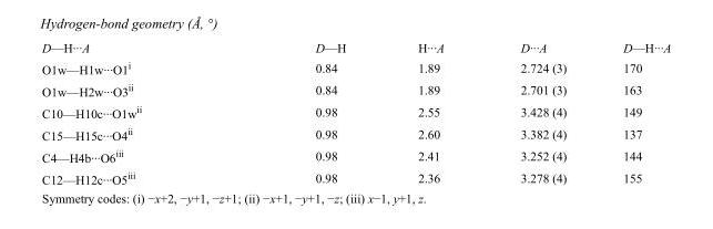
<table><tbody><tr><td>D—H···A</td><td>D—H</td><td>H···A</td><td>D···A</td><td>D—H···A</td></tr><tr><td>O1w—H1w···O1<sup>i</sup></td><td>0.84</td><td>1.89</td><td>2.724 (3)</td><td>170</td></tr><tr><td>O1w—H2w···O3<sup>ii</sup></td><td>0.84</td><td>1.89</td><td>2.701 (3)</td><td>163</td></tr><tr><td>C10—H10c···O1w<sup>ii</sup></td><td>0.98</td><td>2.55</td><td>3.428 (4)</td><td>149</td></tr><tr><td>C15—H15c···O4<sup>ii</sup></td><td>0.98</td><td>2.60</td><td>3.382 (4)</td><td>137</td></tr><tr><td>C4—H4b···O6<sup>iii</sup></td><td>0.98</td><td>2.41</td><td>3.252 (4)</td><td>144</td></tr><tr><td>C12—H12c···O5<sup>iii</sup></td><td>0.98</td><td>2.36</td><td>3.278 (4)</td><td>155</td></tr></tbody></table>